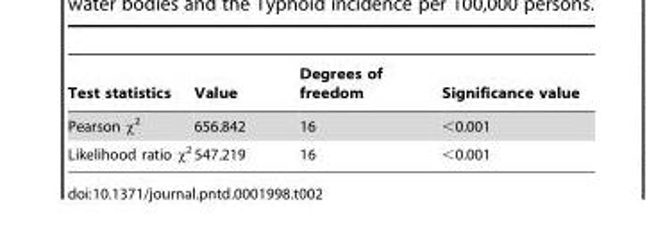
<table><thead><tr><td>Test statistics</td><td>Value</td><td>Degrees of freedom</td><td>Significance value</td></tr></thead><tbody><tr><td>Pearson χ<sup>2</sup></td><td>656.842</td><td>16</td><td>&lt;0.001</td></tr><tr><td>Likelihood ratio χ<sup>2</sup></td><td>547.219</td><td>16</td><td>&lt;0.001</td></tr></tbody></table>